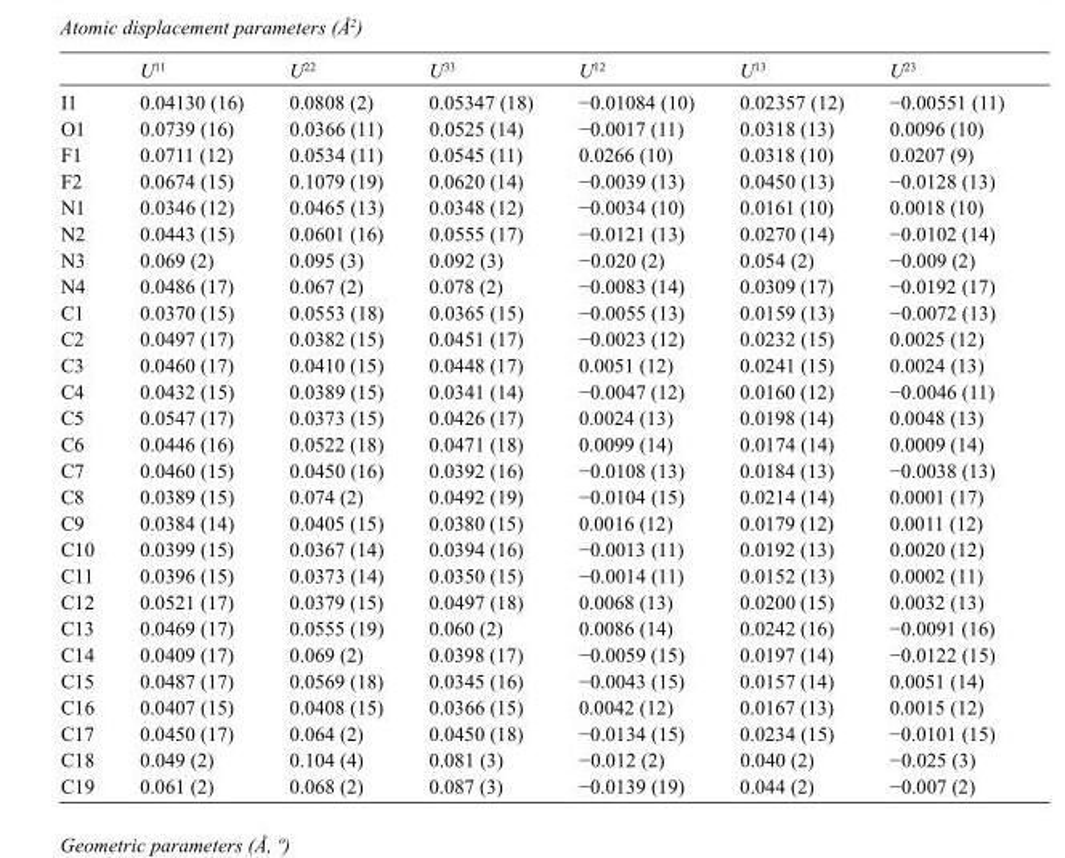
<table><thead><tr><td></td><td>U<sup>11</sup></td><td>U<sup>22</sup></td><td>U<sup>33</sup></td><td>U<sup>12</sup></td><td>U<sup>13</sup></td><td>U<sup>23</sup></td></tr></thead><tbody><tr><td>I1</td><td>0.04130 (16)</td><td>0.0808 (2)</td><td>0.05347 (18)</td><td>−0.01084 (10)</td><td>0.02357 (12)</td><td>−0.00551 (11)</td></tr><tr><td>O1</td><td>0.0739 (16)</td><td>0.0366 (11)</td><td>0.0525 (14)</td><td>−0.0017 (11)</td><td>0.0318 (13)</td><td>0.0096 (10)</td></tr><tr><td>F1</td><td>0.0711 (12)</td><td>0.0534 (11)</td><td>0.0545 (11)</td><td>0.0266 (10)</td><td>0.0318 (10)</td><td>0.0207 (9)</td></tr><tr><td>F2</td><td>0.0674 (15)</td><td>0.1079 (19)</td><td>0.0620 (14)</td><td>−0.0039 (13)</td><td>0.0450 (13)</td><td>−0.0128 (13)</td></tr><tr><td>N1</td><td>0.0346 (12)</td><td>0.0465 (13)</td><td>0.0348 (12)</td><td>−0.0034 (10)</td><td>0.0161 (10)</td><td>0.0018 (10)</td></tr><tr><td>N2</td><td>0.0443 (15)</td><td>0.0601 (16)</td><td>0.0555 (17)</td><td>−0.0121 (13)</td><td>0.0270 (14)</td><td>−0.0102 (14)</td></tr><tr><td>N3</td><td>0.069 (2)</td><td>0.095 (3)</td><td>0.092 (3)</td><td>−0.020 (2)</td><td>0.054 (2)</td><td>−0.009 (2)</td></tr><tr><td>N4</td><td>0.0486 (17)</td><td>0.067 (2)</td><td>0.078 (2)</td><td>−0.0083 (14)</td><td>0.0309 (17)</td><td>−0.0192 (17)</td></tr><tr><td>C1</td><td>0.0370 (15)</td><td>0.0553 (18)</td><td>0.0365 (15)</td><td>−0.0055 (13)</td><td>0.0159 (13)</td><td>−0.0072 (13)</td></tr><tr><td>C2</td><td>0.0497 (17)</td><td>0.0382 (15)</td><td>0.0451 (17)</td><td>−0.0023 (12)</td><td>0.0232 (15)</td><td>0.0025 (12)</td></tr><tr><td>C3</td><td>0.0460 (17)</td><td>0.0410 (15)</td><td>0.0448 (17)</td><td>0.0051 (12)</td><td>0.0241 (15)</td><td>0.0024 (13)</td></tr><tr><td>C4</td><td>0.0432 (15)</td><td>0.0389 (15)</td><td>0.0341 (14)</td><td>−0.0047 (12)</td><td>0.0160 (12)</td><td>−0.0046 (11)</td></tr><tr><td>C5</td><td>0.0547 (17)</td><td>0.0373 (15)</td><td>0.0426 (17)</td><td>0.0024 (13)</td><td>0.0198 (14)</td><td>0.0048 (13)</td></tr><tr><td>C6</td><td>0.0446 (16)</td><td>0.0522 (18)</td><td>0.0471 (18)</td><td>0.0099 (14)</td><td>0.0174 (14)</td><td>0.0009 (14)</td></tr><tr><td>C7</td><td>0.0460 (15)</td><td>0.0450 (16)</td><td>0.0392 (16)</td><td>−0.0108 (13)</td><td>0.0184 (13)</td><td>−0.0038 (13)</td></tr><tr><td>C8</td><td>0.0389 (15)</td><td>0.074 (2)</td><td>0.0492 (19)</td><td>−0.0104 (15)</td><td>0.0214 (14)</td><td>0.0001 (17)</td></tr><tr><td>C9</td><td>0.0384 (14)</td><td>0.0405 (15)</td><td>0.0380 (15)</td><td>0.0016 (12)</td><td>0.0179 (12)</td><td>0.0011 (12)</td></tr><tr><td>C10</td><td>0.0399 (15)</td><td>0.0367 (14)</td><td>0.0394 (16)</td><td>−0.0013 (11)</td><td>0.0192 (13)</td><td>0.0020 (12)</td></tr><tr><td>C11</td><td>0.0396 (15)</td><td>0.0373 (14)</td><td>0.0350 (15)</td><td>−0.0014 (11)</td><td>0.0152 (13)</td><td>0.0002 (11)</td></tr><tr><td>C12</td><td>0.0521 (17)</td><td>0.0379 (15)</td><td>0.0497 (18)</td><td>0.0068 (13)</td><td>0.0200 (15)</td><td>0.0032 (13)</td></tr><tr><td>C13</td><td>0.0469 (17)</td><td>0.0555 (19)</td><td>0.060 (2)</td><td>0.0086 (14)</td><td>0.0242 (16)</td><td>−0.0091 (16)</td></tr><tr><td>C14</td><td>0.0409 (17)</td><td>0.069 (2)</td><td>0.0398 (17)</td><td>−0.0059 (15)</td><td>0.0197 (14)</td><td>−0.0122 (15)</td></tr><tr><td>C15</td><td>0.0487 (17)</td><td>0.0569 (18)</td><td>0.0345 (16)</td><td>−0.0043 (15)</td><td>0.0157 (14)</td><td>0.0051 (14)</td></tr><tr><td>C16</td><td>0.0407 (15)</td><td>0.0408 (15)</td><td>0.0366 (15)</td><td>0.0042 (12)</td><td>0.0167 (13)</td><td>0.0015 (12)</td></tr><tr><td>C17</td><td>0.0450 (17)</td><td>0.064 (2)</td><td>0.0450 (18)</td><td>−0.0134 (15)</td><td>0.0234 (15)</td><td>−0.0101 (15)</td></tr><tr><td>C18</td><td>0.049 (2)</td><td>0.104 (4)</td><td>0.081 (3)</td><td>−0.012 (2)</td><td>0.040 (2)</td><td>−0.025 (3)</td></tr><tr><td>C19</td><td>0.061 (2)</td><td>0.068 (2)</td><td>0.087 (3)</td><td>−0.0139 (19)</td><td>0.044 (2)</td><td>−0.007 (2)</td></tr></tbody></table>